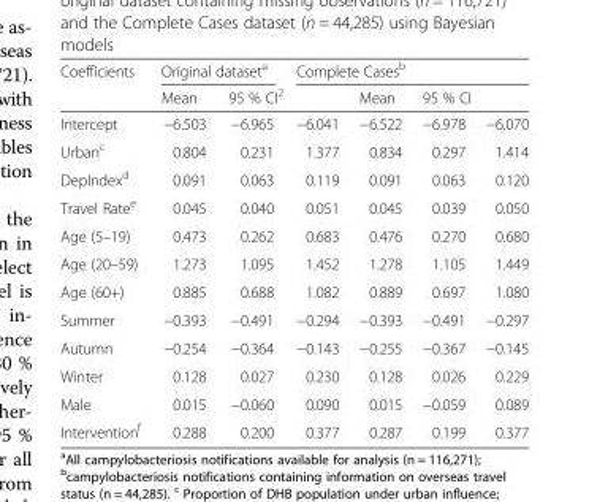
<table><thead><tr><td rowspan="3">Coefficients Intercept</td><td colspan="2">Original dataset<sup>a</sup></td><td colspan="4">Complete Cases<sup>b</sup></td></tr><tr><td rowspan="2">Mean −6.503</td><td colspan="2">95 % CI<sup>2</sup></td><td rowspan="2">Mean −6.522</td><td colspan="2">95 % CI</td></tr><tr><td>−6.965</td><td>−6.041</td><td>−6.978</td><td>−6.070</td></tr></thead><tbody><tr><td>Urban<sup>c</sup></td><td>0.804</td><td>0.231</td><td>1.377</td><td>0.834</td><td>0.297</td><td>1.414</td></tr><tr><td>DepIndex<sup>d</sup></td><td>0.091</td><td>0.063</td><td>0.119</td><td>0.091</td><td>0.063</td><td>0.120</td></tr><tr><td>Travel Rate<sup>e</sup></td><td>0.045</td><td>0.040</td><td>0.051</td><td>0.045</td><td>0.039</td><td>0.050</td></tr><tr><td>Age (5–19)</td><td>0.473</td><td>0.262</td><td>0.683</td><td>0.476</td><td>0.270</td><td>0.680</td></tr><tr><td>Age (20–59)</td><td>1.273</td><td>1.095</td><td>1.452</td><td>1.278</td><td>1.105</td><td>1.449</td></tr><tr><td>Age (60+)</td><td>0.885</td><td>0.688</td><td>1.082</td><td>0.889</td><td>0.697</td><td>1.080</td></tr><tr><td>Summer</td><td>−0.393</td><td>−0.491</td><td>−0.294</td><td>−0.393</td><td>−0.491</td><td>−0.297</td></tr><tr><td>Autumn</td><td>−0.254</td><td>−0.364</td><td>−0.143</td><td>−0.255</td><td>−0.367</td><td>−0.145</td></tr><tr><td>Winter</td><td>0.128</td><td>0.027</td><td>0.230</td><td>0.128</td><td>0.026</td><td>0.229</td></tr><tr><td>Male</td><td>0.015</td><td>−0.060</td><td>0.090</td><td>0.015</td><td>−0.059</td><td>0.089</td></tr><tr><td>Intervention<sup>f</sup></td><td>0.288</td><td>0.200</td><td>0.377</td><td>0.287</td><td>0.199</td><td>0.377</td></tr></tbody></table>